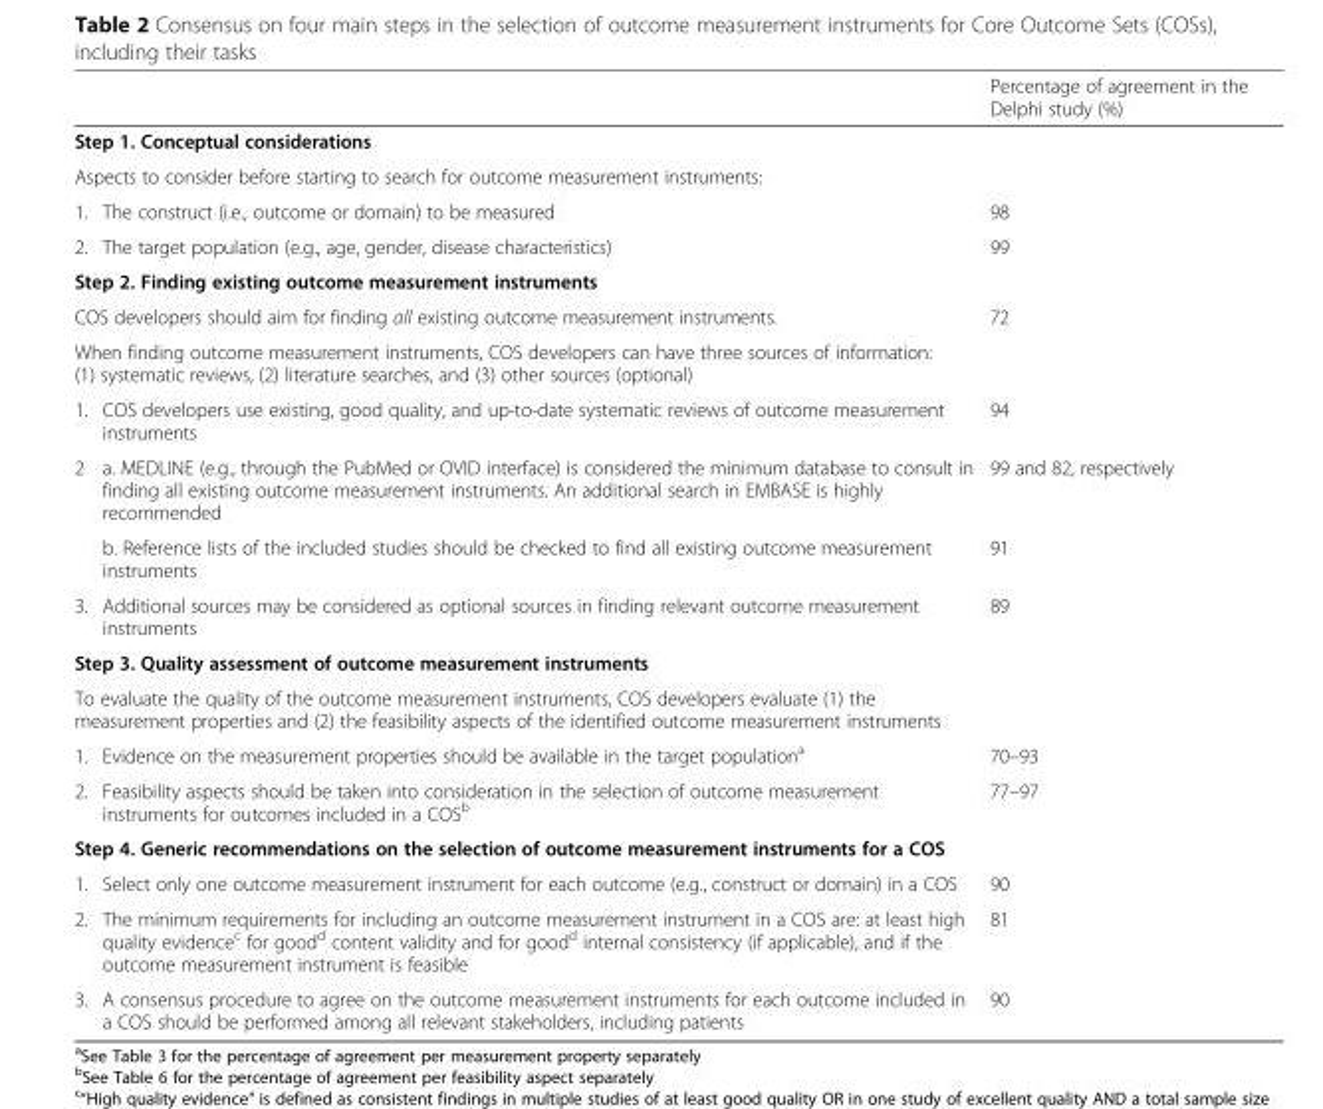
<table><thead><tr><td></td><td></td><td>Percentage of agreement in the Delphi study (%)</td></tr></thead><tbody><tr><td colspan="3">Step 1. Conceptual considerations</td></tr><tr><td colspan="3">Aspects to consider before starting to search for outcome measurement instruments:</td></tr><tr><td>1.</td><td>The construct (i.e., outcome or domain) to be measured</td><td>98</td></tr><tr><td>2.</td><td>The target population (e.g., age, gender, disease characteristics)</td><td>99</td></tr><tr><td colspan="3">Step 2. Finding existing outcome measurement instruments</td></tr><tr><td colspan="2">COS developers should aim for finding all existing outcome measurement instruments.</td><td>72</td></tr><tr><td colspan="3">When finding outcome measurement instruments, COS developers can have three sources of information: (1) systematic reviews, (2) literature searches, and (3) other sources (optional)</td></tr><tr><td>1.</td><td>COS developers use existing, good quality, and up-to-date systematic reviews of outcome measurement instruments</td><td>94</td></tr><tr><td rowspan="2">2</td><td>a. MEDLINE (e.g., through the PubMed or OVID interface) is considered the minimum database to consult in finding all existing outcome measurement instruments. An additional search in EMBASE is highly recommended</td><td>99 and 82, respectively</td></tr><tr><td>b. Reference lists of the included studies should be checked to find all existing outcome measurement instruments</td><td>91</td></tr><tr><td>3.</td><td>Additional sources may be considered as optional sources in finding relevant outcome measurement instruments</td><td>89</td></tr><tr><td colspan="3">Step 3. Quality assessment of outcome measurement instruments</td></tr><tr><td colspan="3">To evaluate the quality of the outcome measurement instruments, COS developers evaluate (1) the measurement properties and (2) the feasibility aspects of the identified outcome measurement instruments</td></tr><tr><td>1.</td><td>Evidence on the measurement properties should be available in the target population<sup>a</sup></td><td>70–93</td></tr><tr><td>2.</td><td>Feasibility aspects should be taken into consideration in the selection of outcome measurement instruments for outcomes included in a COS<sup>b</sup></td><td>77–97</td></tr><tr><td colspan="3">Step 4. Generic recommendations on the selection of outcome measurement instruments for a COS</td></tr><tr><td>1.</td><td>Select only one outcome measurement instrument for each outcome (e.g., construct or domain) in a COS</td><td>90</td></tr><tr><td>2.</td><td>The minimum requirements for including an outcome measurement instrument in a COS are: at least high quality evidence<sup>c</sup> for good<sup>d</sup> content validity and for good<sup>d</sup> internal consistency (if applicable), and if the outcome measurement instrument is feasible</td><td>81</td></tr><tr><td>3.</td><td>A consensus procedure to agree on the outcome measurement instruments for each outcome included in a COS should be performed among all relevant stakeholders, including patients</td><td>90</td></tr></tbody></table>